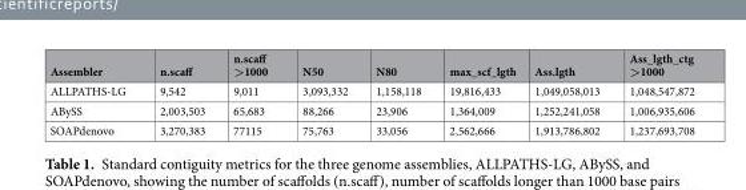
<table><thead><tr><td>Assembler</td><td>n.scaff</td><td>n.scaff &gt;1000</td><td>N50</td><td>N80</td><td>max_scf_lgth</td><td>Ass.lgth</td><td>Ass_lgth_ctg &gt;1000</td></tr></thead><tbody><tr><td>ALLPATHS-LG</td><td>9,542</td><td>9,011</td><td>3,093,332</td><td>1,158,118</td><td>19,816,433</td><td>1,049,058,013</td><td>1,048,547,872</td></tr><tr><td>ABySS</td><td>2,003,503</td><td>65,683</td><td>88,266</td><td>23,906</td><td>1,364,009</td><td>1,252,241,058</td><td>1,006,935,606</td></tr><tr><td>SOAPdenovo</td><td>3,270,383</td><td>77115</td><td>75,763</td><td>33,056</td><td>2,562,666</td><td>1,913,786,802</td><td>1,237,693,708</td></tr></tbody></table>